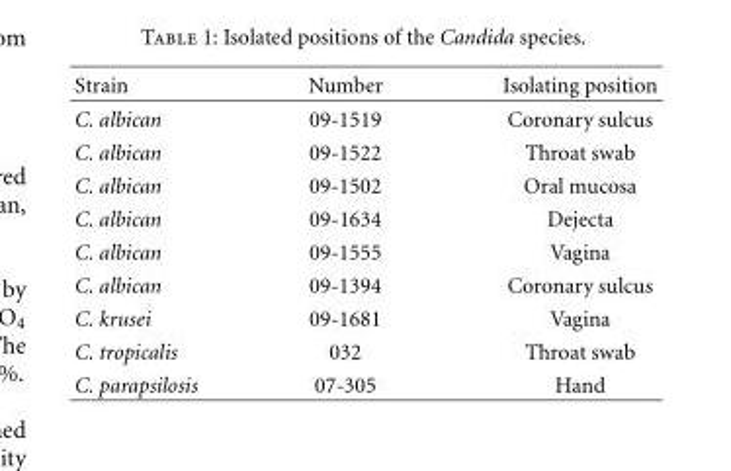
<table><thead><tr><td>Strain</td><td>Number</td><td>Isolating position</td></tr></thead><tbody><tr><td>C. albican</td><td>09-1519</td><td>Coronary sulcus</td></tr><tr><td>C. albican</td><td>09-1522</td><td>Throat swab</td></tr><tr><td>C. albican</td><td>09-1502</td><td>Oral mucosa</td></tr><tr><td>C. albican</td><td>09-1634</td><td>Dejecta</td></tr><tr><td>C. albican</td><td>09-1555</td><td>Vagina</td></tr><tr><td>C. albican</td><td>09-1394</td><td>Coronary sulcus</td></tr><tr><td>C. krusei</td><td>09-1681</td><td>Vagina</td></tr><tr><td>C. tropicalis</td><td>032</td><td>Throat swab</td></tr><tr><td>C. parapsilosis</td><td>07-305</td><td>Hand</td></tr></tbody></table>